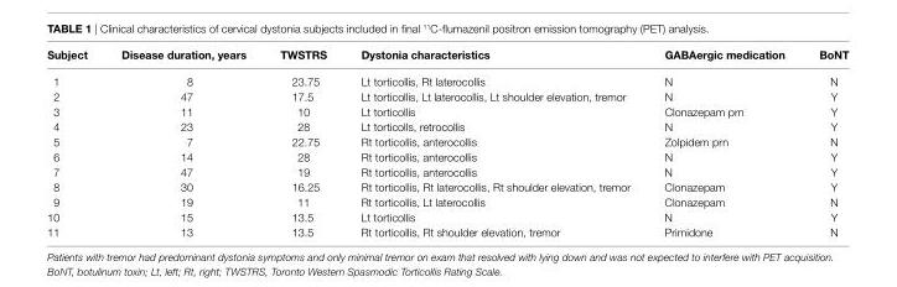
<table><thead><tr><td>subject</td><td>Disease duration, years</td><td>TWsTrs</td><td>Dystonia characteristics</td><td>gaBaergic medication</td><td>BonT</td></tr></thead><tbody><tr><td>1</td><td>8</td><td>23.75</td><td>Lt torticollis, Rt laterocollis</td><td>N</td><td>N</td></tr><tr><td>2</td><td>47</td><td>17.5</td><td>Lt torticollis, Lt laterocollis, Lt shoulder elevation, tremor</td><td>N</td><td>Y</td></tr><tr><td>3</td><td>11</td><td>10</td><td>Lt torticollis</td><td>Clonazepam prn</td><td>Y</td></tr><tr><td>4</td><td>23</td><td>28</td><td>Lt torticolls, retrocollis</td><td>N</td><td>Y</td></tr><tr><td>5</td><td>7</td><td>22.75</td><td>Rt torticollis, anterocollis</td><td>Zolpidem prn</td><td>N</td></tr><tr><td>6</td><td>14</td><td>28</td><td>Rt torticollis, anterocollis</td><td>N</td><td>Y</td></tr><tr><td>7</td><td>47</td><td>19</td><td>Rt torticollis, anterocollis</td><td>N</td><td>Y</td></tr><tr><td>8</td><td>30</td><td>16.25</td><td>Rt torticollis, Rt laterocollis, Rt shoulder elevation, tremor</td><td>Clonazepam</td><td>Y</td></tr><tr><td>9</td><td>19</td><td>11</td><td>Rt torticollis, Lt laterocollis</td><td>Clonazepam</td><td>N</td></tr><tr><td>10</td><td>15</td><td>13.5</td><td>Lt torticollis</td><td>N</td><td>Y</td></tr><tr><td>11</td><td>13</td><td>13.5</td><td>Rt torticollis, Rt shoulder elevation, tremor</td><td>Primidone</td><td>N</td></tr></tbody></table>